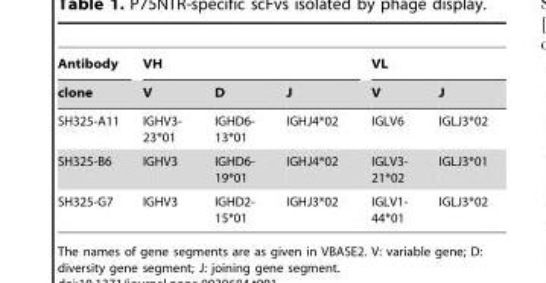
<table><thead><tr><td rowspan="2">Antibody clone</td><td colspan="3">VH</td><td colspan="2">VL</td></tr><tr><td>V</td><td>D</td><td>J</td><td>V</td><td>J</td></tr></thead><tbody><tr><td>SH325-A11</td><td>IGHV3- 23*01</td><td>IGHD6- 13*01</td><td>IGHJ4*02</td><td>IGLV6</td><td>IGLJ3*02</td></tr><tr><td>SH325-B6</td><td>IGHV3</td><td>IGHD6- 19*01</td><td>IGHJ4*02</td><td>IGLV3- 21*02</td><td>IGLJ3*01</td></tr><tr><td>SH325-G7</td><td>IGHV3</td><td>IGHD2- 15*01</td><td>IGHJ3*02</td><td>IGLV1- 44*01</td><td>IGLJ3*02</td></tr></tbody></table>